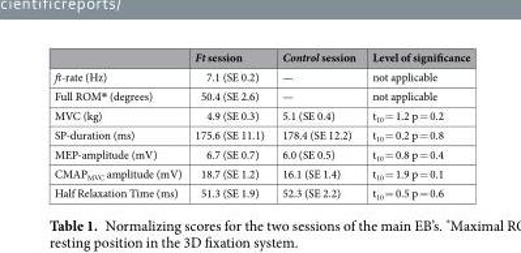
<table><thead><tr><td></td><td>Ft session</td><td>Control session</td><td>Level of significance</td></tr></thead><tbody><tr><td>ft-rate (Hz)</td><td>7.1 (SE 0.2)</td><td>—</td><td>not applicable</td></tr><tr><td>Full ROM* (degrees)</td><td>50.4 (SE 2.6)</td><td>—</td><td>not applicable</td></tr><tr><td>MVC (kg)</td><td>4.9 (SE 0.3)</td><td>5.1 (SE 0.4)</td><td>t<sub>10</sub> = 1.2 p = 0.2</td></tr><tr><td>SP-duration (ms)</td><td>175.6 (SE 11.1)</td><td>178.4 (SE 12.2)</td><td>t<sub>10</sub> = 0.2 p = 0.8</td></tr><tr><td>MEP-amplitude (mV)</td><td>6.7 (SE 0.7)</td><td>6.0 (SE 0.5)</td><td>t<sub>10</sub> = 0.8 p = 0.4</td></tr><tr><td>CMAP<sub>MVC</sub> amplitude (mV)</td><td>18.7 (SE 1.2)</td><td>16.1 (SE 1.4)</td><td>t<sub>10</sub> = 1.9 p = 0.1</td></tr><tr><td>Half Relaxation Time (ms)</td><td>51.3 (SE 1.9)</td><td>52.3 (SE 2.2)</td><td>t<sub>10</sub> = 0.5 p = 0.6</td></tr></tbody></table>